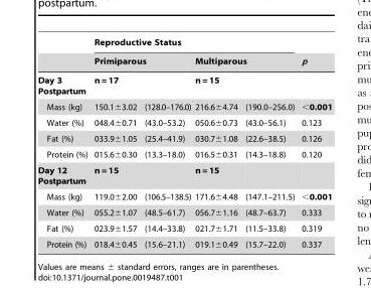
<table><thead><tr><td rowspan="3">Day 3 Postpartum</td><td colspan="4">Reproductive Status</td><td rowspan="3">p</td></tr><tr><td colspan="2">Primiparous</td><td colspan="2">Multiparous</td></tr><tr><td>n = 17</td><td></td><td>n = 15</td><td></td></tr></thead><tbody><tr><td>Mass (kg)</td><td>150.1±3.02</td><td>(128.0–176.0)</td><td>216.6±4.74</td><td>(190.0–256.0)</td><td>&lt;0.001</td></tr><tr><td>Water (%)</td><td>048.4±0.71</td><td>(43.0–53.2)</td><td>050.6±0.73</td><td>(43.0–56.1)</td><td>0.123</td></tr><tr><td>Fat (%)</td><td>033.9±1.05</td><td>(25.4–41.9)</td><td>030.7±1.08</td><td>(22.6–38.5)</td><td>0.126</td></tr><tr><td>Protein (%)</td><td>015.6±0.30</td><td>(13.3–18.0)</td><td>016.5±0.31</td><td>(14.3–18.8)</td><td>0.120</td></tr><tr><td>Day 12 Postpartum</td><td>n = 15</td><td></td><td>n = 15</td><td></td><td></td></tr><tr><td>Mass (kg)</td><td>119.0±2.00</td><td>(106.5–138.5)</td><td>171.6±4.48</td><td>(147.1–211.5)</td><td>&lt;0.001</td></tr><tr><td>Water (%)</td><td>055.2±1.07</td><td>(48.5–61.7)</td><td>056.7±1.16</td><td>(48.7–63.7)</td><td>0.333</td></tr><tr><td>Fat (%)</td><td>023.9±1.57</td><td>(14.4–33.8)</td><td>021.7±1.71</td><td>(11.5–33.8)</td><td>0.319</td></tr><tr><td>Protein (%)</td><td>018.4±0.45</td><td>(15.6–21.1)</td><td>019.1±0.49</td><td>(15.7–22.0)</td><td>0.337</td></tr></tbody></table>